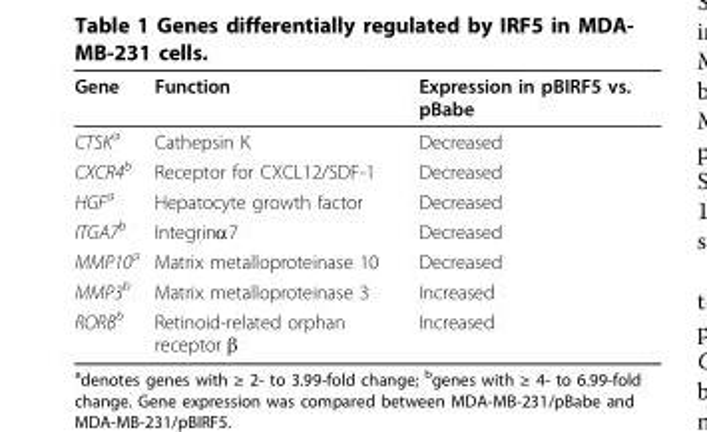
<table><thead><tr><td>Gene</td><td>Function</td><td>Expression in pBIRF5 vs. pBabe</td></tr></thead><tbody><tr><td>CTSK<sup>a</sup></td><td>Cathepsin K</td><td>Decreased</td></tr><tr><td>CXCR4<sup>b</sup></td><td>Receptor for CXCL12/SDF-1</td><td>Decreased</td></tr><tr><td>HGF<sup>a</sup></td><td>Hepatocyte growth factor</td><td>Decreased</td></tr><tr><td>ITGA7<sup>b</sup></td><td>Integrinα7</td><td>Decreased</td></tr><tr><td>MMP10<sup>a</sup></td><td>Matrix metalloproteinase 10</td><td>Decreased</td></tr><tr><td>MMP3<sup>b</sup></td><td>Matrix metalloproteinase 3</td><td>Increased</td></tr><tr><td>RORB<sup>b</sup></td><td>Retinoid-related orphan receptor β</td><td>Increased</td></tr></tbody></table>